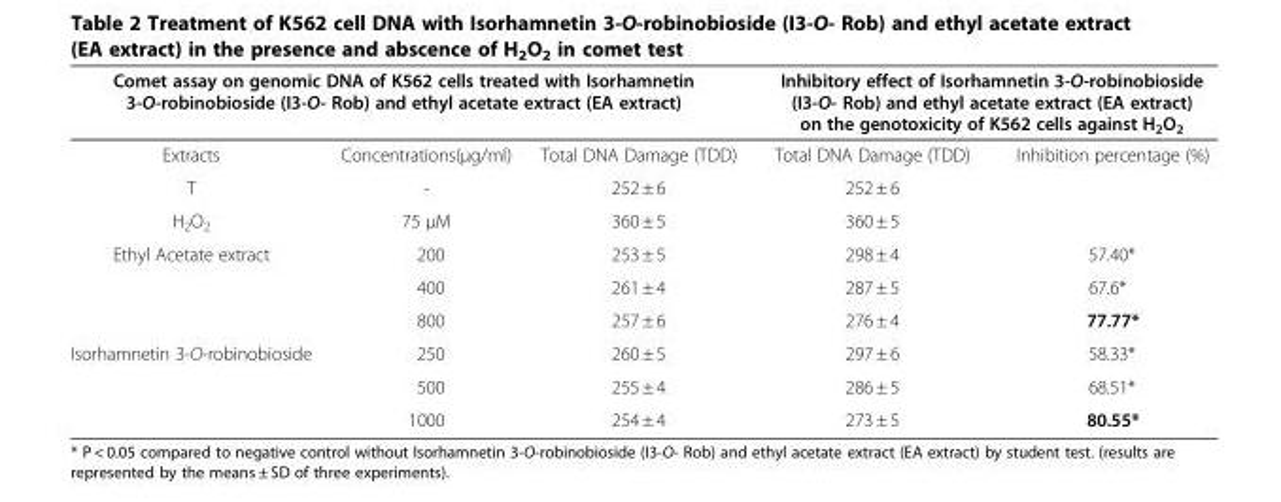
<table><thead><tr><td colspan="3">Comet assay on genomic DNA of K562 cells treated with Isorhamnetin 3-O-robinobioside (I3-O- Rob) and ethyl acetate extract (EA extract)</td><td colspan="2">Inhibitory effect of Isorhamnetin 3-O-robinobioside (I3-O- Rob) and ethyl acetate extract (EA extract) on the genotoxicity of K562 cells against H<sub>2</sub>O<sub>2</sub></td></tr><tr><td>Extracts</td><td>Concentrations(μg/ml)</td><td>Total DNA Damage (TDD)</td><td>Total DNA Damage (TDD)</td><td>Inhibition percentage (%)</td></tr></thead><tbody><tr><td>T</td><td>-</td><td>252 ± 6</td><td>252 ± 6</td><td></td></tr><tr><td>H<sub>2</sub>O<sub>2</sub></td><td>75 μM</td><td>360 ± 5</td><td>360 ± 5</td><td></td></tr><tr><td rowspan="3">Ethyl Acetate extract</td><td>200</td><td>253 ± 5</td><td>298 ± 4</td><td>57.40*</td></tr><tr><td>400</td><td>261 ± 4</td><td>287 ± 5</td><td>67.6*</td></tr><tr><td>800</td><td>257 ± 6</td><td>276 ± 4</td><td>77.77*</td></tr><tr><td rowspan="3">Isorhamnetin 3-O-robinobioside</td><td>250</td><td>260 ± 5</td><td>297 ± 6</td><td>58.33*</td></tr><tr><td>500</td><td>255 ± 4</td><td>286 ± 5</td><td>68.51*</td></tr><tr><td>1000</td><td>254 ± 4</td><td>273 ± 5</td><td>80.55*</td></tr></tbody></table>